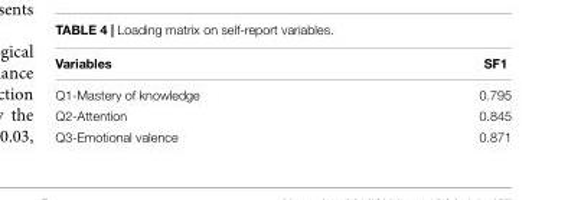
<table><thead><tr><td>Variables</td><td>SF1</td></tr></thead><tbody><tr><td>Q1-Mastery of knowledge</td><td>0.795</td></tr><tr><td>Q2-Attention</td><td>0.845</td></tr><tr><td>Q3-Emotional valence</td><td>0.871</td></tr></tbody></table>